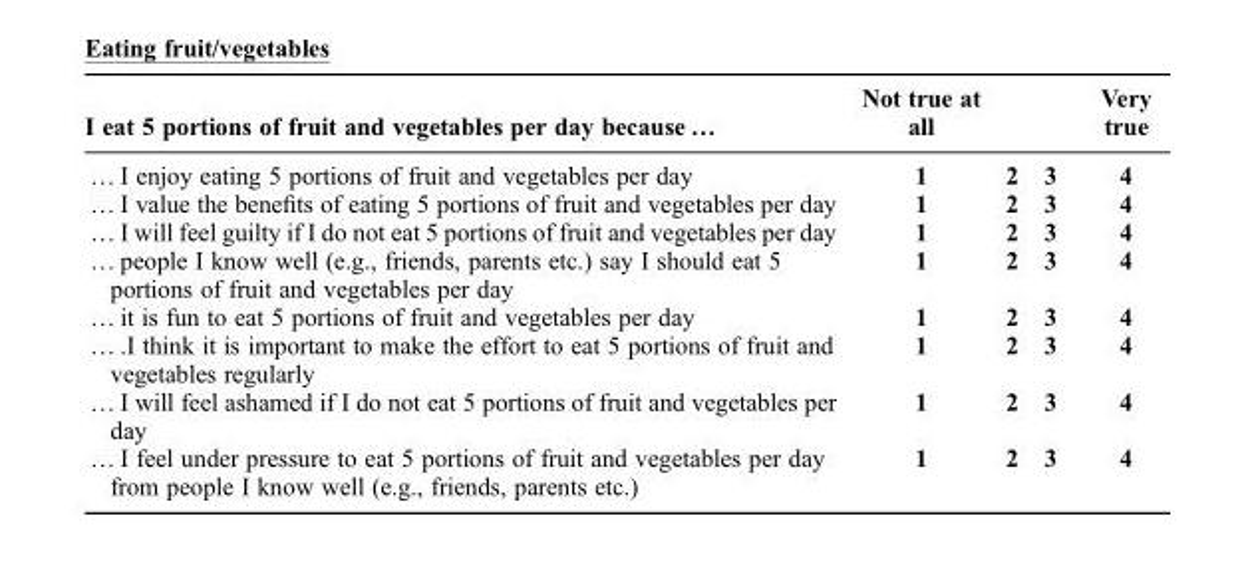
<table><thead><tr><td>I eat 5 portions of fruit and vegetables per day because …</td><td>Not true at all</td><td></td><td></td><td>Very true</td></tr></thead><tbody><tr><td>… I enjoy eating 5 portions of fruit and vegetables per day</td><td>1</td><td>2</td><td>3</td><td>4</td></tr><tr><td>… I value the benefits of eating 5 portions of fruit and vegetables per day</td><td>1</td><td>2</td><td>3</td><td>4</td></tr><tr><td>… I will feel guilty if I do not eat 5 portions of fruit and vegetables per day</td><td>1</td><td>2</td><td>3</td><td>4</td></tr><tr><td>… people I know well (e.g., friends, parents etc.) say I should eat 5 portions of fruit and vegetables per day</td><td>1</td><td>2</td><td>3</td><td>4</td></tr><tr><td>… it is fun to eat 5 portions of fruit and vegetables per day</td><td>1</td><td>2</td><td>3</td><td>4</td></tr><tr><td>… .I think it is important to make the effort to eat 5 portions of fruit and vegetables regularly</td><td>1</td><td>2</td><td>3</td><td>4</td></tr><tr><td>… I will feel ashamed if I do not eat 5 portions of fruit and vegetables per day</td><td>1</td><td>2</td><td>3</td><td>4</td></tr><tr><td>… I feel under pressure to eat 5 portions of fruit and vegetables per day from people I know well (e.g., friends, parents etc.)</td><td>1</td><td>2</td><td>3</td><td>4</td></tr></tbody></table>